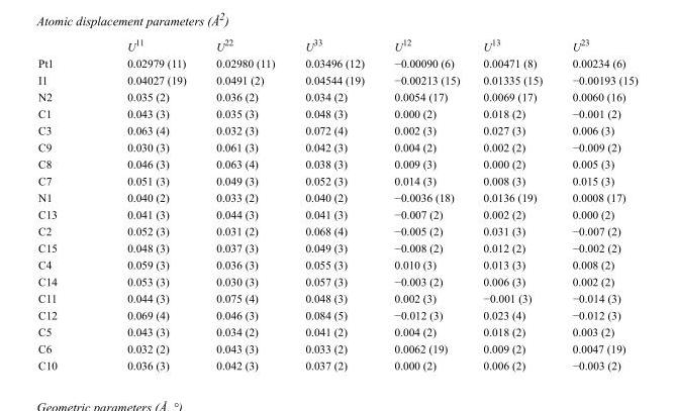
<table><thead><tr><td></td><td>U<sup>11</sup></td><td>U<sup>22</sup></td><td>U<sup>33</sup></td><td>U<sup>12</sup></td><td>U<sup>13</sup></td><td>U<sup>23</sup></td></tr></thead><tbody><tr><td>Pt1</td><td>0.02979 (11)</td><td>0.02980 (11)</td><td>0.03496 (12)</td><td>−0.00090 (6)</td><td>0.00471 (8)</td><td>0.00234 (6)</td></tr><tr><td>I1</td><td>0.04027 (19)</td><td>0.0491 (2)</td><td>0.04544 (19)</td><td>−0.00213 (15)</td><td>0.01335 (15)</td><td>−0.00193 (15)</td></tr><tr><td>N2</td><td>0.035 (2)</td><td>0.036 (2)</td><td>0.034 (2)</td><td>0.0054 (17)</td><td>0.0069 (17)</td><td>0.0060 (16)</td></tr><tr><td>C1</td><td>0.043 (3)</td><td>0.035 (3)</td><td>0.048 (3)</td><td>0.000 (2)</td><td>0.018 (2)</td><td>−0.001 (2)</td></tr><tr><td>C3</td><td>0.063 (4)</td><td>0.032 (3)</td><td>0.072 (4)</td><td>0.002 (3)</td><td>0.027 (3)</td><td>0.006 (3)</td></tr><tr><td>C9</td><td>0.030 (3)</td><td>0.061 (3)</td><td>0.042 (3)</td><td>0.004 (2)</td><td>0.002 (2)</td><td>−0.009 (2)</td></tr><tr><td>C8</td><td>0.046 (3)</td><td>0.063 (4)</td><td>0.038 (3)</td><td>0.009 (3)</td><td>0.000 (2)</td><td>0.005 (3)</td></tr><tr><td>C7</td><td>0.051 (3)</td><td>0.049 (3)</td><td>0.052 (3)</td><td>0.014 (3)</td><td>0.008 (3)</td><td>0.015 (3)</td></tr><tr><td>N1</td><td>0.040 (2)</td><td>0.033 (2)</td><td>0.040 (2)</td><td>−0.0036 (18)</td><td>0.0136 (19)</td><td>0.0008 (17)</td></tr><tr><td>C13</td><td>0.041 (3)</td><td>0.044 (3)</td><td>0.041 (3)</td><td>−0.007 (2)</td><td>0.002 (2)</td><td>0.000 (2)</td></tr><tr><td>C2</td><td>0.052 (3)</td><td>0.031 (2)</td><td>0.068 (4)</td><td>−0.005 (2)</td><td>0.031 (3)</td><td>−0.007 (2)</td></tr><tr><td>C15</td><td>0.048 (3)</td><td>0.037 (3)</td><td>0.049 (3)</td><td>−0.008 (2)</td><td>0.012 (2)</td><td>−0.002 (2)</td></tr><tr><td>C4</td><td>0.059 (3)</td><td>0.036 (3)</td><td>0.055 (3)</td><td>0.010 (3)</td><td>0.013 (3)</td><td>0.008 (2)</td></tr><tr><td>C14</td><td>0.053 (3)</td><td>0.030 (3)</td><td>0.057 (3)</td><td>−0.003 (2)</td><td>0.006 (3)</td><td>0.002 (2)</td></tr><tr><td>C11</td><td>0.044 (3)</td><td>0.075 (4)</td><td>0.048 (3)</td><td>0.002 (3)</td><td>−0.001 (3)</td><td>−0.014 (3)</td></tr><tr><td>C12</td><td>0.069 (4)</td><td>0.046 (3)</td><td>0.084 (5)</td><td>−0.012 (3)</td><td>0.023 (4)</td><td>−0.012 (3)</td></tr><tr><td>C5</td><td>0.043 (3)</td><td>0.034 (2)</td><td>0.041 (2)</td><td>0.004 (2)</td><td>0.018 (2)</td><td>0.003 (2)</td></tr><tr><td>C6</td><td>0.032 (2)</td><td>0.043 (3)</td><td>0.033 (2)</td><td>0.0062 (19)</td><td>0.009 (2)</td><td>0.0047 (19)</td></tr><tr><td>C10</td><td>0.036 (3)</td><td>0.042 (3)</td><td>0.037 (2)</td><td>0.000 (2)</td><td>0.006 (2)</td><td>−0.003 (2)</td></tr></tbody></table>